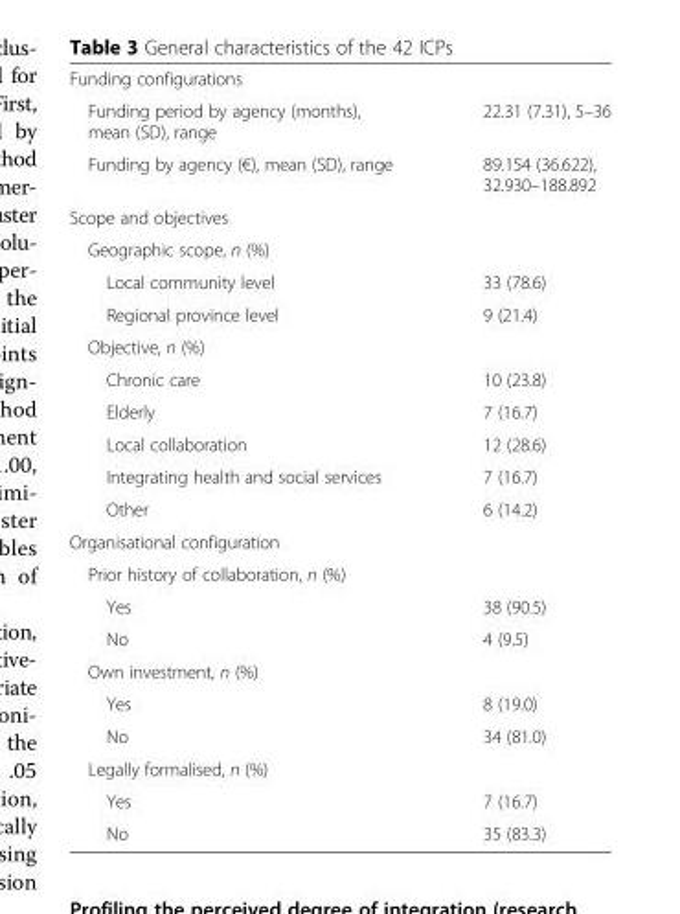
<table><tbody><tr><td colspan="2">Funding configurations</td></tr><tr><td>Funding period by agency (months), mean (SD), range</td><td>22.31 (7.31), 5–36</td></tr><tr><td>Funding by agency (€), mean (SD), range</td><td>89.154 (36.622), 32.930–188.892</td></tr><tr><td colspan="2">Scope and objectives</td></tr><tr><td colspan="2">Geographic scope, n (%)</td></tr><tr><td>Local community level</td><td>33 (78.6)</td></tr><tr><td>Regional province level</td><td>9 (21.4)</td></tr><tr><td colspan="2">Objective, n (%)</td></tr><tr><td>Chronic care</td><td>10 (23.8)</td></tr><tr><td>Elderly</td><td>7 (16.7)</td></tr><tr><td>Local collaboration</td><td>12 (28.6)</td></tr><tr><td>Integrating health and social services</td><td>7 (16.7)</td></tr><tr><td>Other</td><td>6 (14.2)</td></tr><tr><td colspan="2">Organisational configuration</td></tr><tr><td colspan="2">Prior history of collaboration, n (%)</td></tr><tr><td>Yes</td><td>38 (90.5)</td></tr><tr><td>No</td><td>4 (9.5)</td></tr><tr><td colspan="2">Own investment, n (%)</td></tr><tr><td>Yes</td><td>8 (19.0)</td></tr><tr><td>No</td><td>34 (81.0)</td></tr><tr><td colspan="2">Legally formalised, n (%)</td></tr><tr><td>Yes</td><td>7 (16.7)</td></tr><tr><td>No</td><td>35 (83.3)</td></tr></tbody></table>